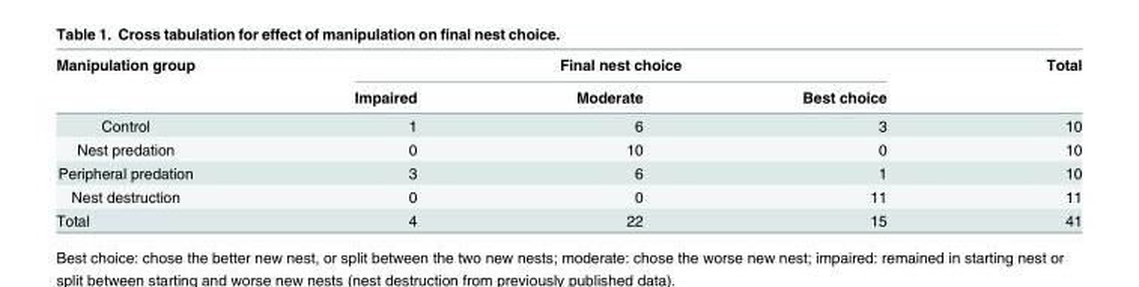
<table><thead><tr><td rowspan="2">Manipulation group</td><td colspan="3">Final nest choice</td><td rowspan="2">Total</td></tr><tr><td>Impaired</td><td>Moderate</td><td>Best choice</td></tr></thead><tbody><tr><td>Control</td><td>1</td><td>6</td><td>3</td><td>10</td></tr><tr><td>Nest predation</td><td>0</td><td>10</td><td>0</td><td>10</td></tr><tr><td>Peripheral predation</td><td>3</td><td>6</td><td>1</td><td>10</td></tr><tr><td>Nest destruction</td><td>0</td><td>0</td><td>11</td><td>11</td></tr><tr><td>Total</td><td>4</td><td>22</td><td>15</td><td>41</td></tr></tbody></table>